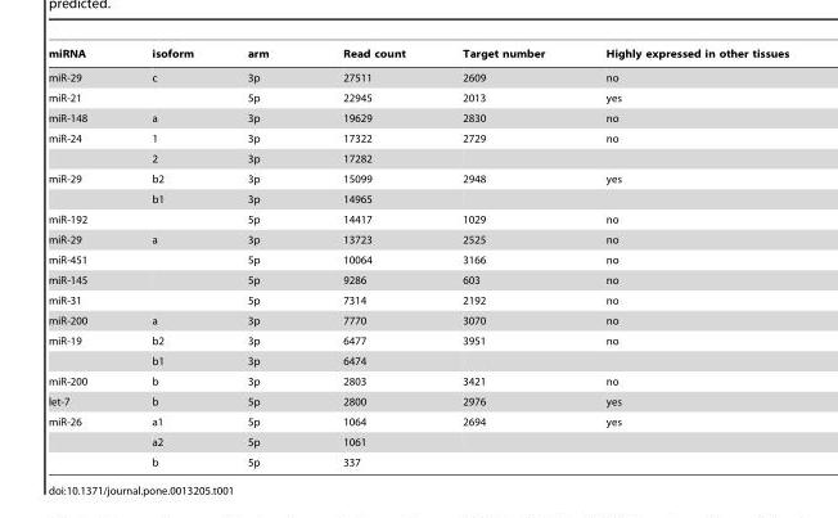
<table><thead><tr><td>miRNA</td><td>isoform</td><td>arm</td><td>Read count</td><td>Target number</td><td>Highly expressed in other tissues</td></tr></thead><tbody><tr><td>miR-29</td><td>c</td><td>3p</td><td>27511</td><td>2609</td><td>no</td></tr><tr><td>miR-21</td><td></td><td>5p</td><td>22945</td><td>2013</td><td>yes</td></tr><tr><td>miR-148</td><td>a</td><td>3p</td><td>19629</td><td>2830</td><td>no</td></tr><tr><td rowspan="2">miR-24</td><td>1</td><td>3p</td><td>17322</td><td>2729</td><td>no</td></tr><tr><td>2</td><td>3p</td><td>17282</td><td></td><td></td></tr><tr><td rowspan="2">miR-29</td><td>b2</td><td>3p</td><td>15099</td><td>2948</td><td>yes</td></tr><tr><td>b1</td><td>3p</td><td>14965</td><td></td><td></td></tr><tr><td>miR-192</td><td></td><td>5p</td><td>14417</td><td>1029</td><td>no</td></tr><tr><td>miR-29</td><td>a</td><td>3p</td><td>13723</td><td>2525</td><td>no</td></tr><tr><td>miR-451</td><td></td><td>5p</td><td>10064</td><td>3166</td><td>no</td></tr><tr><td>miR-145</td><td></td><td>5p</td><td>9286</td><td>603</td><td>no</td></tr><tr><td>miR-31</td><td></td><td>5p</td><td>7314</td><td>2192</td><td>no</td></tr><tr><td>miR-200</td><td>a</td><td>3p</td><td>7770</td><td>3070</td><td>no</td></tr><tr><td rowspan="2">miR-19</td><td>b2</td><td>3p</td><td>6477</td><td>3951</td><td>no</td></tr><tr><td>b1</td><td>3p</td><td>6474</td><td></td><td></td></tr><tr><td>miR-200</td><td>b</td><td>3p</td><td>2803</td><td>3421</td><td>no</td></tr><tr><td>let-7</td><td>b</td><td>5p</td><td>2800</td><td>2976</td><td>yes</td></tr><tr><td rowspan="3">miR-26</td><td>a1</td><td>5p</td><td>1064</td><td>2694</td><td>yes</td></tr><tr><td>a2</td><td>5p</td><td>1061</td><td></td><td></td></tr><tr><td>b</td><td>5p</td><td>337</td><td></td><td></td></tr></tbody></table>